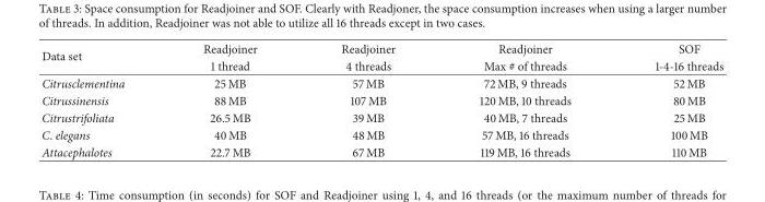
<table><thead><tr><td rowspan="2">Data set</td><td rowspan="2">Readjoiner 1 thread</td><td rowspan="2">Readjoiner 4 threads</td><td rowspan="2">Readjoiner Max # of threads</td><td rowspan="2">SOF 1-4-16 threads</td></tr><tr></tr></thead><tbody><tr><td>Citrusclementina</td><td>25 MB</td><td>57 MB</td><td>72 MB, 9 threads</td><td>52 MB</td></tr><tr><td>Citrussinensis</td><td>88 MB</td><td>107 MB</td><td>120 MB, 10 threads</td><td>80 MB</td></tr><tr><td>Citrustrifoliata</td><td>26.5 MB</td><td>39 MB</td><td>40 MB, 7 threads</td><td>25 MB</td></tr><tr><td>C. elegans</td><td>40 MB</td><td>48 MB</td><td>57 MB, 16 threads</td><td>100 MB</td></tr><tr><td>Attacephalotes</td><td>22.7 MB</td><td>67 MB</td><td>119 MB, 16 threads</td><td>110 MB</td></tr></tbody></table>